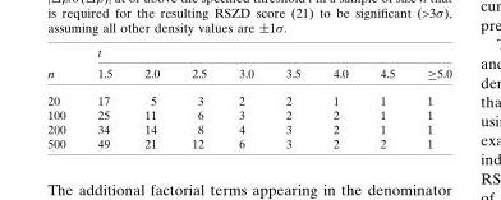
<table><thead><tr><td rowspan="2">n</td><td colspan="8">t</td></tr><tr><td>1.5</td><td>2.0</td><td>2.5</td><td>3.0</td><td>3.5</td><td>4.0</td><td>4.5</td><td>≥5.0</td></tr></thead><tbody><tr><td>20</td><td>17</td><td>5</td><td>3</td><td>2</td><td>2</td><td>1</td><td>1</td><td>1</td></tr><tr><td>100</td><td>25</td><td>11</td><td>6</td><td>3</td><td>2</td><td>2</td><td>1</td><td>1</td></tr><tr><td>200</td><td>34</td><td>14</td><td>8</td><td>4</td><td>3</td><td>2</td><td>1</td><td>1</td></tr><tr><td>500</td><td>49</td><td>21</td><td>12</td><td>6</td><td>3</td><td>2</td><td>2</td><td>1</td></tr></tbody></table>